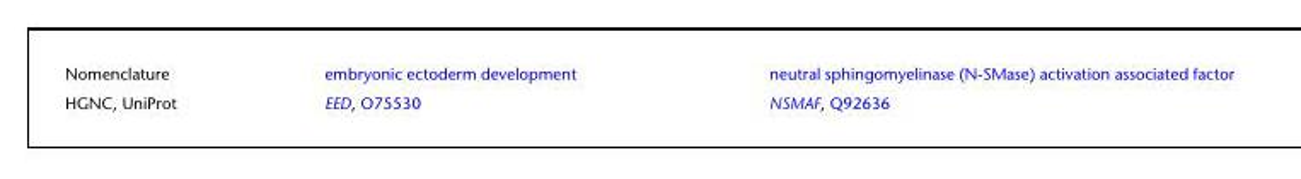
<table><tbody><tr><td>Nomenclature</td><td>embryonic ectoderm development</td><td>neutral sphingomyelinase (N-SMase) activation associated factor</td></tr><tr><td>HGNC, UniProt</td><td>EED, O75530</td><td>NSMAF, Q92636</td></tr></tbody></table>